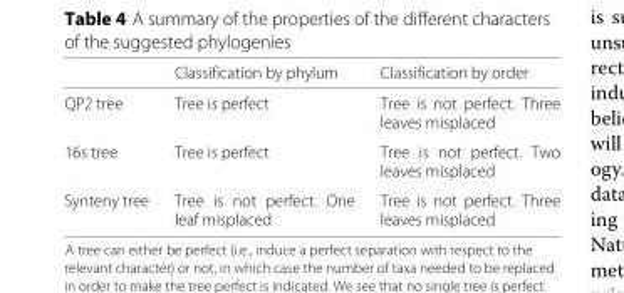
<table><thead><tr><td></td><td>Classification by phylum</td><td>Classification by order</td></tr></thead><tbody><tr><td>QP2 tree</td><td>Tree is perfect</td><td>Tree is not perfect. Three leaves misplaced</td></tr><tr><td>16s tree</td><td>Tree is perfect</td><td>Tree is not perfect. Two leaves misplaced</td></tr><tr><td>Synteny tree</td><td>Tree is not perfect. One leaf misplaced</td><td>Tree is not perfect. Three leaves misplaced</td></tr></tbody></table>